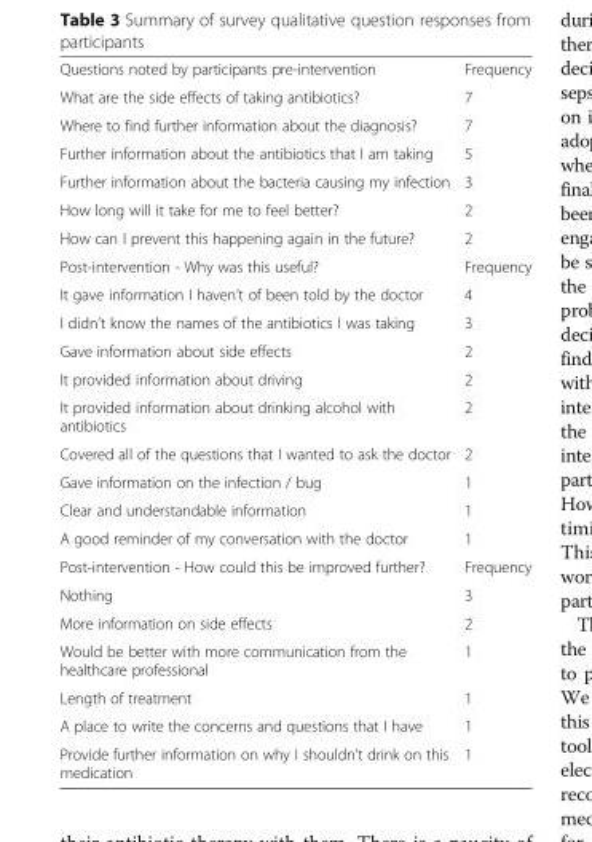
<table><tbody><tr><td>Questions noted by participants pre-intervention</td><td>Frequency</td></tr><tr><td>What are the side effects of taking antibiotics?</td><td>7</td></tr><tr><td>Where to find further information about the diagnosis?</td><td>7</td></tr><tr><td>Further information about the antibiotics that I am taking</td><td>5</td></tr><tr><td>Further information about the bacteria causing my infection</td><td>3</td></tr><tr><td>How long will it take for me to feel better?</td><td>2</td></tr><tr><td>How can I prevent this happening again in the future?</td><td>2</td></tr><tr><td>Post-intervention - Why was this useful?</td><td>Frequency</td></tr><tr><td>It gave information I haven’t of been told by the doctor</td><td>4</td></tr><tr><td>I didn’t know the names of the antibiotics I was taking</td><td>3</td></tr><tr><td>Gave information about side effects</td><td>2</td></tr><tr><td>It provided information about driving</td><td>2</td></tr><tr><td>It provided information about drinking alcohol with antibiotics</td><td>2</td></tr><tr><td>Covered all of the questions that I wanted to ask the doctor</td><td>2</td></tr><tr><td>Gave information on the infection / bug</td><td>1</td></tr><tr><td>Clear and understandable information</td><td>1</td></tr><tr><td>A good reminder of my conversation with the doctor</td><td>1</td></tr><tr><td>Post-intervention - How could this be improved further?</td><td>Frequency</td></tr><tr><td>Nothing</td><td>3</td></tr><tr><td>More information on side effects</td><td>2</td></tr><tr><td>Would be better with more communication from the healthcare professional</td><td>1</td></tr><tr><td>Length of treatment</td><td>1</td></tr><tr><td>A place to write the concerns and questions that I have</td><td>1</td></tr><tr><td>Provide further information on why I shouldn’t drink on this medication</td><td>1</td></tr></tbody></table>